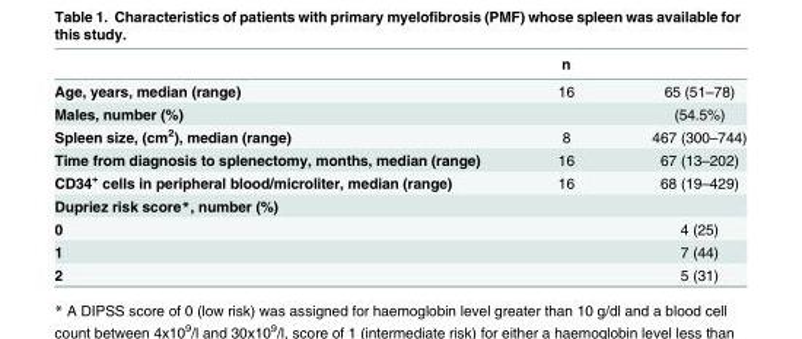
<table><thead><tr><td></td><td>n</td><td></td></tr></thead><tbody><tr><td>Age, years, median (range)</td><td>16</td><td>65 (51–78)</td></tr><tr><td>Males, number (%)</td><td></td><td>(54.5%)</td></tr><tr><td>Spleen size, (cm<sup>2</sup>), median (range)</td><td>8</td><td>467 (300–744)</td></tr><tr><td>Time from diagnosis to splenectomy, months, median (range)</td><td>16</td><td>67 (13–202)</td></tr><tr><td>CD34<sup>+</sup> cells in peripheral blood/microliter, median (range)</td><td>16</td><td>68 (19–429)</td></tr><tr><td colspan="3">Dupriez risk score*, number (%)</td></tr><tr><td>0</td><td></td><td>4 (25)</td></tr><tr><td>1</td><td></td><td>7 (44)</td></tr><tr><td>2</td><td></td><td>5 (31)</td></tr></tbody></table>